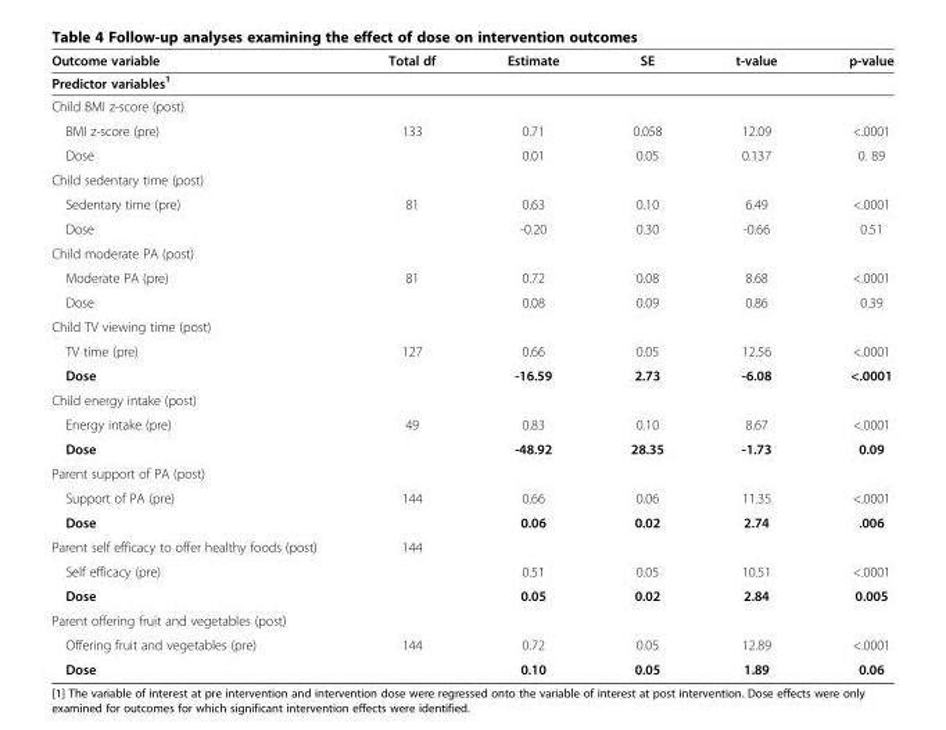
<table><thead><tr><td>Outcome variable</td><td>Total df</td><td>Estimate</td><td>SE</td><td>t-value</td><td>p-value</td></tr><tr><td colspan="6">Predictor variables<sup>1</sup></td></tr></thead><tbody><tr><td colspan="6">Child BMI z-score (post)</td></tr><tr><td>BMI z-score (pre)</td><td>133</td><td>0.71</td><td>0.058</td><td>12.09</td><td>&lt;.0001</td></tr><tr><td>Dose</td><td></td><td>0.01</td><td>0.05</td><td>0.137</td><td>0. 89</td></tr><tr><td colspan="6">Child sedentary time (post)</td></tr><tr><td>Sedentary time (pre)</td><td>81</td><td>0.63</td><td>0.10</td><td>6.49</td><td>&lt;.0001</td></tr><tr><td>Dose</td><td></td><td>-0.20</td><td>0.30</td><td>-0.66</td><td>0.51</td></tr><tr><td colspan="6">Child moderate PA (post)</td></tr><tr><td>Moderate PA (pre)</td><td>81</td><td>0.72</td><td>0.08</td><td>8.68</td><td>&lt;.0001</td></tr><tr><td>Dose</td><td></td><td>0.08</td><td>0.09</td><td>0.86</td><td>0.39</td></tr><tr><td colspan="6">Child TV viewing time (post)</td></tr><tr><td>TV time (pre)</td><td>127</td><td>0.66</td><td>0.05</td><td>12.56</td><td>&lt;.0001</td></tr><tr><td>Dose</td><td></td><td>-16.59</td><td>2.73</td><td>-6.08</td><td>&lt;.0001</td></tr><tr><td colspan="6">Child energy intake (post)</td></tr><tr><td>Energy intake (pre)</td><td>49</td><td>0.83</td><td>0.10</td><td>8.67</td><td>&lt;.0001</td></tr><tr><td>Dose</td><td></td><td>-48.92</td><td>28.35</td><td>-1.73</td><td>0.09</td></tr><tr><td colspan="6">Parent support of PA (post)</td></tr><tr><td>Support of PA (pre)</td><td>144</td><td>0.66</td><td>0.06</td><td>11.35</td><td>&lt;.0001</td></tr><tr><td>Dose</td><td></td><td>0.06</td><td>0.02</td><td>2.74</td><td>.006</td></tr><tr><td>Parent self efficacy to offer healthy foods (post)</td><td>144</td><td></td><td></td><td></td><td></td></tr><tr><td>Self efficacy (pre)</td><td></td><td>0.51</td><td>0.05</td><td>10.51</td><td>&lt;.0001</td></tr><tr><td>Dose</td><td></td><td>0.05</td><td>0.02</td><td>2.84</td><td>0.005</td></tr><tr><td colspan="6">Parent offering fruit and vegetables (post)</td></tr><tr><td>Offering fruit and vegetables (pre)</td><td>144</td><td>0.72</td><td>0.05</td><td>12.89</td><td>&lt;.0001</td></tr><tr><td>Dose</td><td></td><td>0.10</td><td>0.05</td><td>1.89</td><td>0.06</td></tr></tbody></table>